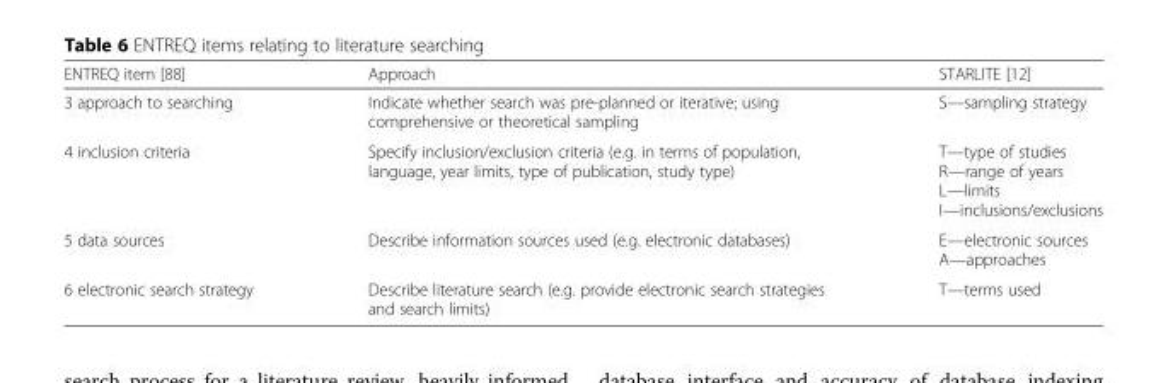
<table><thead><tr><td>ENTREQ item [88]</td><td>Approach</td><td>STARLITE [12]</td></tr></thead><tbody><tr><td>3 approach to searching</td><td>Indicate whether search was pre-planned or iterative; using comprehensive or theoretical sampling</td><td>S—sampling strategy</td></tr><tr><td>4 inclusion criteria</td><td>Specify inclusion/exclusion criteria (e.g. in terms of population, language, year limits, type of publication, study type)</td><td>T—type of studies R—range of years L—limits I—inclusions/exclusions</td></tr><tr><td>5 data sources</td><td>Describe information sources used (e.g. electronic databases)</td><td>E—electronic sources A—approaches</td></tr><tr><td>6 electronic search strategy</td><td>Describe literature search (e.g. provide electronic search strategies and search limits)</td><td>T—terms used</td></tr></tbody></table>